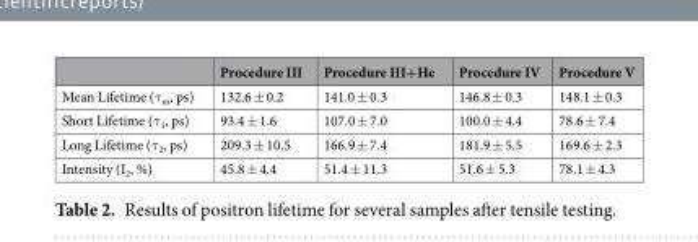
<table><thead><tr><td></td><td>Procedure III</td><td>Procedure III+He</td><td>Procedure IV</td><td>Procedure V</td></tr></thead><tbody><tr><td>Mean Lifetime (τ<sub>m</sub>, ps)</td><td>132.6 ± 0.2</td><td>141.0 ± 0.3</td><td>146.8 ± 0.3</td><td>148.1 ± 0.3</td></tr><tr><td>Short Lifetime (τ<sub>1</sub>, ps)</td><td>93.4 ± 1.6</td><td>107.0 ± 7.0</td><td>100.0 ± 4.4</td><td>78.6 ± 7.4</td></tr><tr><td>Long Lifetime (τ<sub>2</sub>, ps)</td><td>209.3 ± 10.5</td><td>166.9 ± 7.4</td><td>181.9 ± 5.5</td><td>169.6 ± 2.3</td></tr><tr><td>Intensity (I<sub>2</sub>, %)</td><td>45.8 ± 4.4</td><td>51.4 ± 11.3</td><td>51.6 ± 5.3</td><td>78.1 ± 4.3</td></tr></tbody></table>